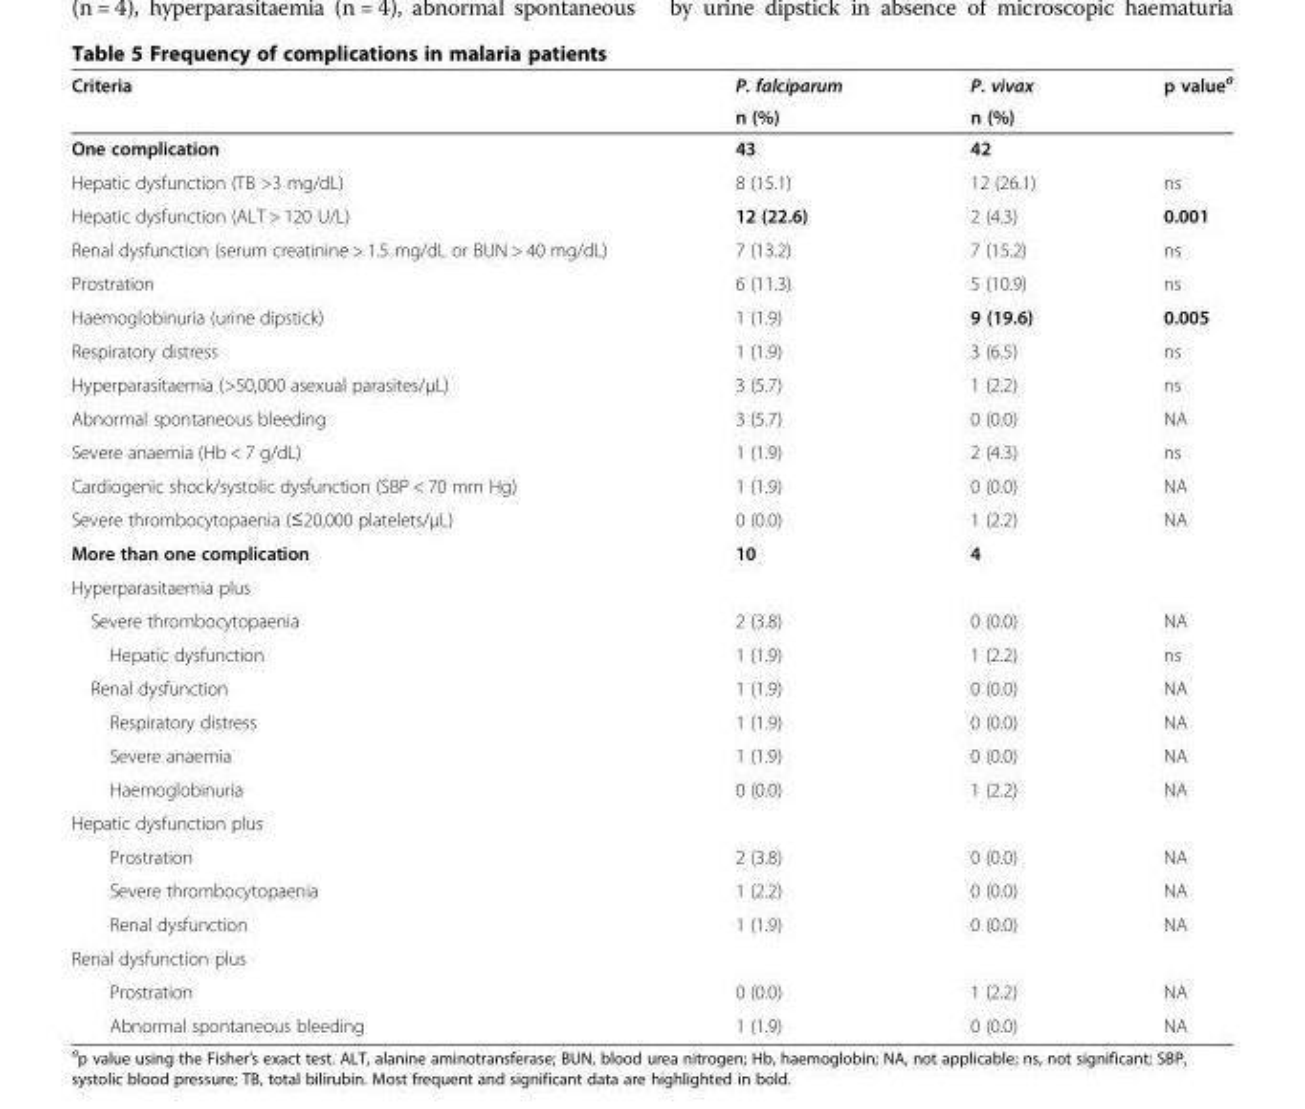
<table><thead><tr><td rowspan="2">Criteria</td><td rowspan="2">P. falciparum n (%)</td><td rowspan="2">P. vivax n (%)</td><td rowspan="2">p value<sup>a</sup></td></tr><tr></tr></thead><tbody><tr><td>One complication</td><td>43</td><td>42</td><td></td></tr><tr><td>Hepatic dysfunction (TB &gt;3 mg/dL)</td><td>8 (15.1)</td><td>12 (26.1)</td><td>ns</td></tr><tr><td>Hepatic dysfunction (ALT &gt; 120 U/L)</td><td>12 (22.6)</td><td>2 (4.3)</td><td>0.001</td></tr><tr><td>Renal dysfunction (serum creatinine &gt; 1.5 mg/dL or BUN &gt; 40 mg/dL)</td><td>7 (13.2)</td><td>7 (15.2)</td><td>ns</td></tr><tr><td>Prostration</td><td>6 (11.3)</td><td>5 (10.9)</td><td>ns</td></tr><tr><td>Haemoglobinuria (urine dipstick)</td><td>1 (1.9)</td><td>9 (19.6)</td><td>0.005</td></tr><tr><td>Respiratory distress</td><td>1 (1.9)</td><td>3 (6.5)</td><td>ns</td></tr><tr><td>Hyperparasitaemia (&gt;50,000 asexual parasites/μL)</td><td>3 (5.7)</td><td>1 (2.2)</td><td>ns</td></tr><tr><td>Abnormal spontaneous bleeding</td><td>3 (5.7)</td><td>0 (0.0)</td><td>NA</td></tr><tr><td>Severe anaemia (Hb &lt; 7 g/dL)</td><td>1 (1.9)</td><td>2 (4.3)</td><td>ns</td></tr><tr><td>Cardiogenic shock/systolic dysfunction (SBP &lt; 70 mm Hg)</td><td>1 (1.9)</td><td>0 (0.0)</td><td>NA</td></tr><tr><td>Severe thrombocytopaenia (≤20,000 platelets/μL)</td><td>0 (0.0)</td><td>1 (2.2)</td><td>NA</td></tr><tr><td>More than one complication</td><td>10</td><td>4</td><td></td></tr><tr><td colspan="4">Hyperparasitaemia plus</td></tr><tr><td>Severe thrombocytopaenia</td><td>2 (3.8)</td><td>0 (0.0)</td><td>NA</td></tr><tr><td>Hepatic dysfunction</td><td>1 (1.9)</td><td>1 (2.2)</td><td>ns</td></tr><tr><td>Renal dysfunction</td><td>1 (1.9)</td><td>0 (0.0)</td><td>NA</td></tr><tr><td>Respiratory distress</td><td>1 (1.9)</td><td>0 (0.0)</td><td>NA</td></tr><tr><td>Severe anaemia</td><td>1 (1.9)</td><td>0 (0.0)</td><td>NA</td></tr><tr><td>Haemoglobinuria</td><td>0 (0.0)</td><td>1 (2.2)</td><td>NA</td></tr><tr><td colspan="4">Hepatic dysfunction plus</td></tr><tr><td>Prostration</td><td>2 (3.8)</td><td>0 (0.0)</td><td>NA</td></tr><tr><td>Severe thrombocytopaenia</td><td>1 (2.2)</td><td>0 (0.0)</td><td>NA</td></tr><tr><td>Renal dysfunction</td><td>1 (1.9)</td><td>0 (0.0)</td><td>NA</td></tr><tr><td colspan="4">Renal dysfunction plus</td></tr><tr><td>Prostration</td><td>0 (0.0)</td><td>1 (2.2)</td><td>NA</td></tr><tr><td>Abnormal spontaneous bleeding</td><td>1 (1.9)</td><td>0 (0.0)</td><td>NA</td></tr></tbody></table>